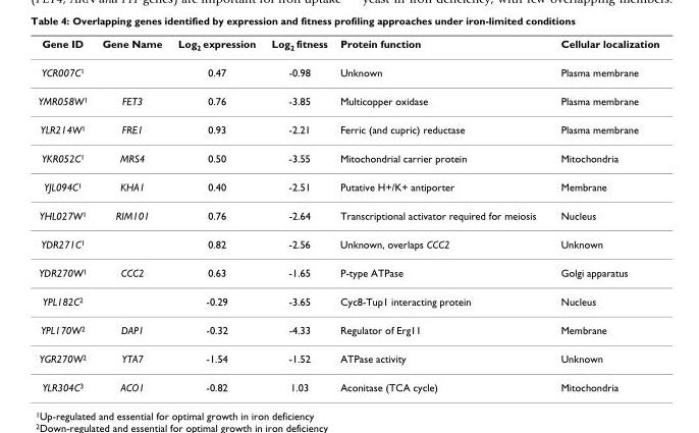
<table><thead><tr><td>Gene ID</td><td>Gene Name</td><td>Log<sub>2</sub> expression</td><td>Log<sub>2</sub> fitness</td><td>Protein function</td><td>Cellular localization</td></tr></thead><tbody><tr><td>YCR007C<sup>1</sup></td><td></td><td>0.47</td><td>-0.98</td><td>Unknown</td><td>Plasma membrane</td></tr><tr><td>YMR058W<sup>1</sup></td><td>FET3</td><td>0.76</td><td>-3.85</td><td>Multicopper oxidase</td><td>Plasma membrane</td></tr><tr><td>YLR214W<sup>1</sup></td><td>FRE1</td><td>0.93</td><td>-2.21</td><td>Ferric (and cupric) reductase</td><td>Plasma membrane</td></tr><tr><td>YKR052C<sup>1</sup></td><td>MRS4</td><td>0.50</td><td>-3.55</td><td>Mitochondrial carrier protein</td><td>Mitochondria</td></tr><tr><td>YJL094C<sup>1</sup></td><td>KHA1</td><td>0.40</td><td>-2.51</td><td>Putative H+/K+ antiporter</td><td>Membrane</td></tr><tr><td>YHL027W<sup>1</sup></td><td>RIM101</td><td>0.76</td><td>-2.64</td><td>Transcriptional activator required for meiosis</td><td>Nucleus</td></tr><tr><td>YDR271C<sup>1</sup></td><td></td><td>0.82</td><td>-2.56</td><td>Unknown, overlaps CCC2</td><td>Unknown</td></tr><tr><td>YDR270W<sup>1</sup></td><td>CCC2</td><td>0.63</td><td>-1.65</td><td>P-type ATPase</td><td>Golgi apparatus</td></tr><tr><td>YPL182C<sup>2</sup></td><td></td><td>-0.29</td><td>-3.65</td><td>Cyc8-Tup1 interacting protein</td><td>Nucleus</td></tr><tr><td>YPL170W<sup>2</sup></td><td>DAP1</td><td>-0.32</td><td>-4.33</td><td>Regulator of Erg11</td><td>Membrane</td></tr><tr><td>YGR270W<sup>2</sup></td><td>YTA7</td><td>-1.54</td><td>-1.52</td><td>ATPase activity</td><td>Unknown</td></tr><tr><td>YLR304C<sup>3</sup></td><td>ACO1</td><td>-0.82</td><td>1.03</td><td>Aconitase (TCA cycle)</td><td>Mitochondria</td></tr></tbody></table>